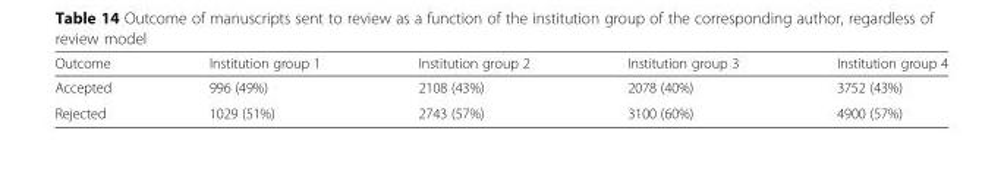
<table><thead><tr><td>Outcome</td><td>Institution group 1</td><td>Institution group 2</td><td>Institution group 3</td><td>Institution group 4</td></tr></thead><tbody><tr><td>Accepted</td><td>996 (49%)</td><td>2108 (43%)</td><td>2078 (40%)</td><td>3752 (43%)</td></tr><tr><td>Rejected</td><td>1029 (51%)</td><td>2743 (57%)</td><td>3100 (60%)</td><td>4900 (57%)</td></tr></tbody></table>